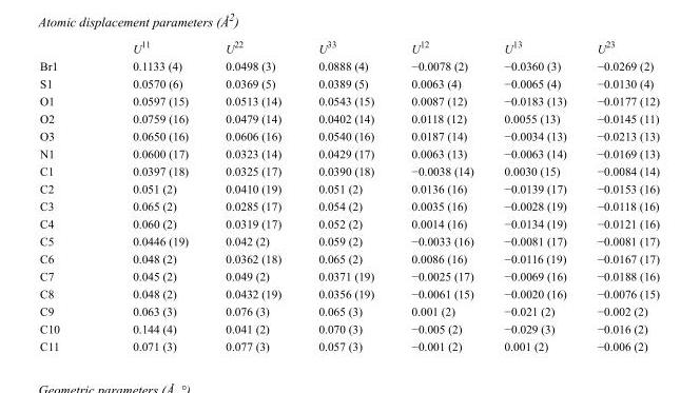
<table><thead><tr><td></td><td>U<sup>11</sup></td><td>U<sup>22</sup></td><td>U<sup>33</sup></td><td>U<sup>12</sup></td><td>U<sup>13</sup></td><td>U<sup>23</sup></td></tr></thead><tbody><tr><td>Br1</td><td>0.1133 (4)</td><td>0.0498 (3)</td><td>0.0888 (4)</td><td>−0.0078 (2)</td><td>−0.0360 (3)</td><td>−0.0269 (2)</td></tr><tr><td>S1</td><td>0.0570 (6)</td><td>0.0369 (5)</td><td>0.0389 (5)</td><td>0.0063 (4)</td><td>−0.0065 (4)</td><td>−0.0130 (4)</td></tr><tr><td>O1</td><td>0.0597 (15)</td><td>0.0513 (14)</td><td>0.0543 (15)</td><td>0.0087 (12)</td><td>−0.0183 (13)</td><td>−0.0177 (12)</td></tr><tr><td>O2</td><td>0.0759 (16)</td><td>0.0479 (14)</td><td>0.0402 (14)</td><td>0.0118 (12)</td><td>0.0055 (13)</td><td>−0.0145 (11)</td></tr><tr><td>O3</td><td>0.0650 (16)</td><td>0.0606 (16)</td><td>0.0540 (16)</td><td>0.0187 (14)</td><td>−0.0034 (13)</td><td>−0.0213 (13)</td></tr><tr><td>N1</td><td>0.0600 (17)</td><td>0.0323 (14)</td><td>0.0429 (17)</td><td>0.0063 (13)</td><td>−0.0063 (14)</td><td>−0.0169 (13)</td></tr><tr><td>C1</td><td>0.0397 (18)</td><td>0.0325 (17)</td><td>0.0390 (18)</td><td>−0.0038 (14)</td><td>0.0030 (15)</td><td>−0.0084 (14)</td></tr><tr><td>C2</td><td>0.051 (2)</td><td>0.0410 (19)</td><td>0.051 (2)</td><td>0.0136 (16)</td><td>−0.0139 (17)</td><td>−0.0153 (16)</td></tr><tr><td>C3</td><td>0.065 (2)</td><td>0.0285 (17)</td><td>0.054 (2)</td><td>0.0035 (16)</td><td>−0.0028 (19)</td><td>−0.0118 (16)</td></tr><tr><td>C4</td><td>0.060 (2)</td><td>0.0319 (17)</td><td>0.052 (2)</td><td>0.0014 (16)</td><td>−0.0134 (19)</td><td>−0.0121 (16)</td></tr><tr><td>C5</td><td>0.0446 (19)</td><td>0.042 (2)</td><td>0.059 (2)</td><td>−0.0033 (16)</td><td>−0.0081 (17)</td><td>−0.0081 (17)</td></tr><tr><td>C6</td><td>0.048 (2)</td><td>0.0362 (18)</td><td>0.065 (2)</td><td>0.0086 (16)</td><td>−0.0116 (19)</td><td>−0.0167 (17)</td></tr><tr><td>C7</td><td>0.045 (2)</td><td>0.049 (2)</td><td>0.0371 (19)</td><td>−0.0025 (17)</td><td>−0.0069 (16)</td><td>−0.0188 (16)</td></tr><tr><td>C8</td><td>0.048 (2)</td><td>0.0432 (19)</td><td>0.0356 (19)</td><td>−0.0061 (15)</td><td>−0.0020 (16)</td><td>−0.0076 (15)</td></tr><tr><td>C9</td><td>0.063 (3)</td><td>0.076 (3)</td><td>0.065 (3)</td><td>0.001 (2)</td><td>−0.021 (2)</td><td>−0.002 (2)</td></tr><tr><td>C10</td><td>0.144 (4)</td><td>0.041 (2)</td><td>0.070 (3)</td><td>−0.005 (2)</td><td>−0.029 (3)</td><td>−0.016 (2)</td></tr><tr><td>C11</td><td>0.071 (3)</td><td>0.077 (3)</td><td>0.057 (3)</td><td>−0.001 (2)</td><td>0.001 (2)</td><td>−0.006 (2)</td></tr></tbody></table>